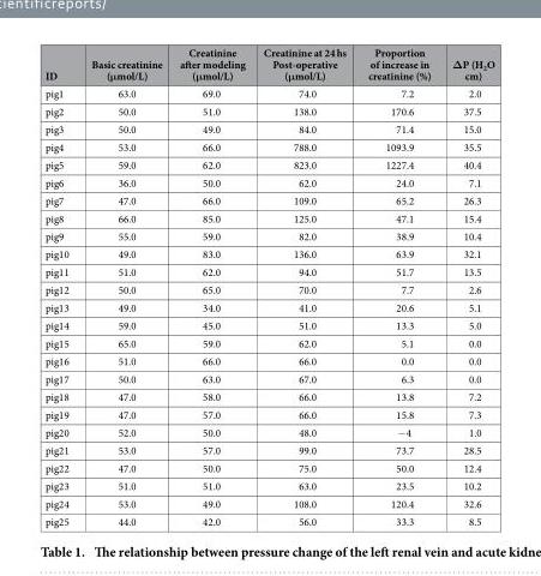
<table><thead><tr><td>ID</td><td>Basic creatinine (μmol/L)</td><td>Creatinine after modeling (μmol/L)</td><td>Creatinine at 24 hs Post-operative (μmol/L)</td><td>Proportion of increase in creatinine (%)</td><td>ΔP (H<sub>2</sub>O cm)</td></tr></thead><tbody><tr><td>pig1</td><td>63.0</td><td>69.0</td><td>74.0</td><td>7.2</td><td>2.0</td></tr><tr><td>pig2</td><td>50.0</td><td>51.0</td><td>138.0</td><td>170.6</td><td>37.5</td></tr><tr><td>pig3</td><td>50.0</td><td>49.0</td><td>84.0</td><td>71.4</td><td>15.0</td></tr><tr><td>pig4</td><td>53.0</td><td>66.0</td><td>788.0</td><td>1093.9</td><td>35.5</td></tr><tr><td>pig5</td><td>59.0</td><td>62.0</td><td>823.0</td><td>1227.4</td><td>40.4</td></tr><tr><td>pig6</td><td>36.0</td><td>50.0</td><td>62.0</td><td>24.0</td><td>7.1</td></tr><tr><td>pig7</td><td>47.0</td><td>66.0</td><td>109.0</td><td>65.2</td><td>26.3</td></tr><tr><td>pig8</td><td>66.0</td><td>85.0</td><td>125.0</td><td>47.1</td><td>15.4</td></tr><tr><td>pig9</td><td>55.0</td><td>59.0</td><td>82.0</td><td>38.9</td><td>10.4</td></tr><tr><td>pig10</td><td>49.0</td><td>83.0</td><td>136.0</td><td>63.9</td><td>32.1</td></tr><tr><td>pig11</td><td>51.0</td><td>62.0</td><td>94.0</td><td>51.7</td><td>13.5</td></tr><tr><td>pig12</td><td>50.0</td><td>65.0</td><td>70.0</td><td>7.7</td><td>2.6</td></tr><tr><td>pig13</td><td>49.0</td><td>34.0</td><td>41.0</td><td>20.6</td><td>5.1</td></tr><tr><td>pig14</td><td>59.0</td><td>45.0</td><td>51.0</td><td>13.3</td><td>5.0</td></tr><tr><td>pig15</td><td>65.0</td><td>59.0</td><td>62.0</td><td>5.1</td><td>0.0</td></tr><tr><td>pig16</td><td>51.0</td><td>66.0</td><td>66.0</td><td>0.0</td><td>0.0</td></tr><tr><td>pig17</td><td>50.0</td><td>63.0</td><td>67.0</td><td>6.3</td><td>0.0</td></tr><tr><td>pig18</td><td>47.0</td><td>58.0</td><td>66.0</td><td>13.8</td><td>7.2</td></tr><tr><td>pig19</td><td>47.0</td><td>57.0</td><td>66.0</td><td>15.8</td><td>7.3</td></tr><tr><td>pig20</td><td>52.0</td><td>50.0</td><td>48.0</td><td>− 4</td><td>1.0</td></tr><tr><td>pig21</td><td>53.0</td><td>57.0</td><td>99.0</td><td>73.7</td><td>28.5</td></tr><tr><td>pig22</td><td>47.0</td><td>50.0</td><td>75.0</td><td>50.0</td><td>12.4</td></tr><tr><td>pig23</td><td>51.0</td><td>51.0</td><td>63.0</td><td>23.5</td><td>10.2</td></tr><tr><td>pig24</td><td>53.0</td><td>49.0</td><td>108.0</td><td>120.4</td><td>32.6</td></tr><tr><td>pig25</td><td>44.0</td><td>42.0</td><td>56.0</td><td>33.3</td><td>8.5</td></tr></tbody></table>